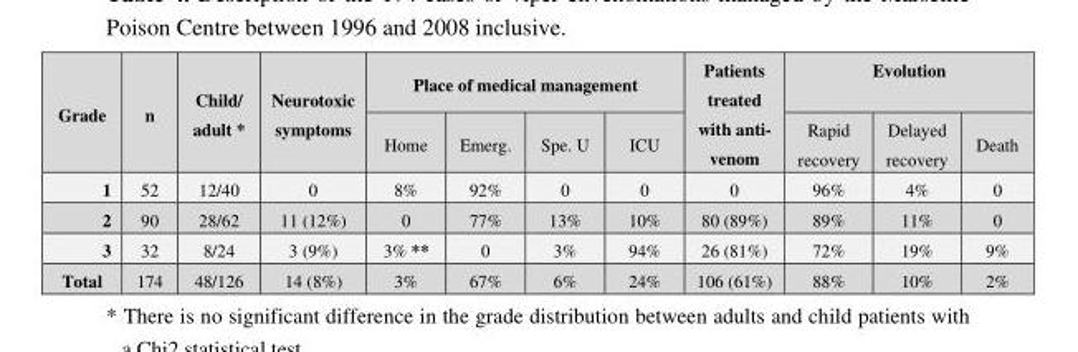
<table><thead><tr><td rowspan="2">Grade</td><td rowspan="2">n</td><td rowspan="2">Child/ adult *</td><td rowspan="2">Neurotoxic symptoms</td><td colspan="4">Place of medical management</td><td rowspan="2">Patients treated with anti- venom</td><td colspan="3">Evolution</td></tr><tr><td>Home</td><td>Emerg.</td><td>Spe. U</td><td>ICU</td><td>Rapid recovery</td><td>Delayed recovery</td><td>Death</td></tr></thead><tbody><tr><td>1</td><td>52</td><td>12/40</td><td>0</td><td>8%</td><td>92%</td><td>0</td><td>0</td><td>0</td><td>96%</td><td>4%</td><td>0</td></tr><tr><td>2</td><td>90</td><td>28/62</td><td>11 (12%)</td><td>0</td><td>77%</td><td>13%</td><td>10%</td><td>80 (89%)</td><td>89%</td><td>11%</td><td>0</td></tr><tr><td>3</td><td>32</td><td>8/24</td><td>3 (9%)</td><td>3% **</td><td>0</td><td>3%</td><td>94%</td><td>26 (81%)</td><td>72%</td><td>19%</td><td>9%</td></tr><tr><td>Total</td><td>174</td><td>48/126</td><td>14 (8%)</td><td>3%</td><td>67%</td><td>6%</td><td>24%</td><td>106 (61%)</td><td>88%</td><td>10%</td><td>2%</td></tr></tbody></table>